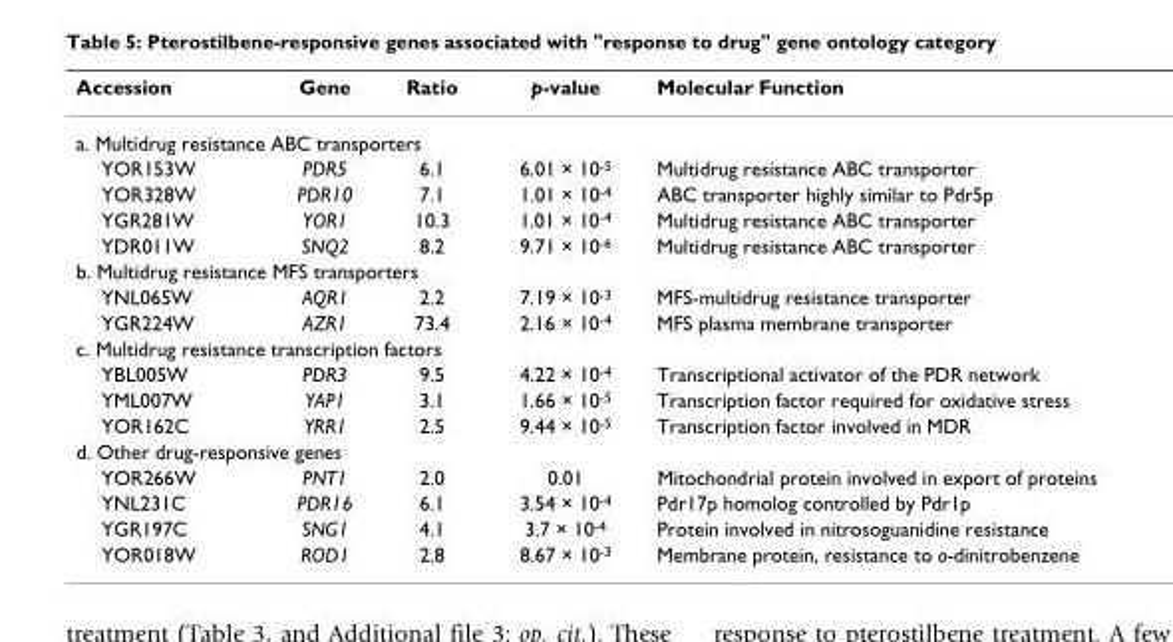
<table><thead><tr><td>Accession</td><td>Gene</td><td>Ratio</td><td>p-value</td><td>Molecular Function</td></tr></thead><tbody><tr><td colspan="5">a. Multidrug resistance ABC transporters</td></tr><tr><td>YOR153W</td><td>PDR5</td><td>6.1</td><td>6.01 × 10<sup>-5</sup></td><td>Multidrug resistance ABC transporter</td></tr><tr><td>YOR328W</td><td>PDR10</td><td>7.1</td><td>1.01 × 10<sup>-4</sup></td><td>ABC transporter highly similar to Pdr5p</td></tr><tr><td>YGR281W</td><td>YOR1</td><td>10.3</td><td>1.01 × 10<sup>-4</sup></td><td>Multidrug resistance ABC transporter</td></tr><tr><td>YDR011W</td><td>SNQ2</td><td>8.2</td><td>9.71 × 10<sup>-6</sup></td><td>Multidrug resistance ABC transporter</td></tr><tr><td colspan="5">b. Multidrug resistance MFS transporters</td></tr><tr><td>YNL065W</td><td>AQR1</td><td>2.2</td><td>7.19 × 10<sup>-3</sup></td><td>MFS-multidrug resistance transporter</td></tr><tr><td>YGR224W</td><td>AZR1</td><td>73.4</td><td>2.16 × 10<sup>-4</sup></td><td>MFS plasma membrane transporter</td></tr><tr><td colspan="5">c. Multidrug resistance transcription factors</td></tr><tr><td>YBL005W</td><td>PDR3</td><td>9.5</td><td>4.22 × 10<sup>-4</sup></td><td>Transcriptional activator of the PDR network</td></tr><tr><td>YML007W</td><td>YAP1</td><td>3.1</td><td>1.66 × 10<sup>-5</sup></td><td>Transcription factor required for oxidative stress</td></tr><tr><td>YOR162C</td><td>YRR1</td><td>2.5</td><td>9.44 × 10<sup>-5</sup></td><td>Transcription factor involved in MDR</td></tr><tr><td colspan="5">d. Other drug-responsive genes</td></tr><tr><td>YOR266W</td><td>PNT1</td><td>2.0</td><td>0.01</td><td>Mitochondrial protein involved in export of proteins</td></tr><tr><td>YNL231C</td><td>PDR16</td><td>6.1</td><td>3.54 × 10<sup>-4</sup></td><td>Pdr17p homolog controlled by Pdr1p</td></tr><tr><td>YGR197C</td><td>SNG1</td><td>4.1</td><td>3.7 × 10<sup>-4</sup></td><td>Protein involved in nitrosoguanidine resistance</td></tr><tr><td>YOR018W</td><td>ROD1</td><td>2.8</td><td>8.67 × 10<sup>-3</sup></td><td>Membrane protein, resistance to o-dinitrobenzene</td></tr></tbody></table>